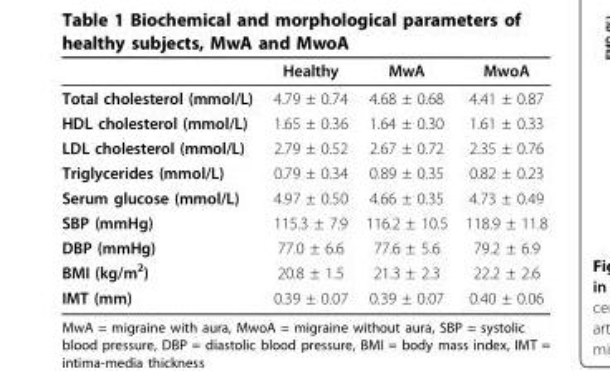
<table><thead><tr><td></td><td>Healthy</td><td>MwA</td><td>MwoA</td></tr></thead><tbody><tr><td>Total cholesterol (mmol/L)</td><td>4.79 ± 0.74</td><td>4.68 ± 0.68</td><td>4.41 ± 0.87</td></tr><tr><td>HDL cholesterol (mmol/L)</td><td>1.65 ± 0.36</td><td>1.64 ± 0.30</td><td>1.61 ± 0.33</td></tr><tr><td>LDL cholesterol (mmol/L)</td><td>2.79 ± 0.52</td><td>2.67 ± 0.72</td><td>2.35 ± 0.76</td></tr><tr><td>Triglycerides (mmol/L)</td><td>0.79 ± 0.34</td><td>0.89 ± 0.35</td><td>0.82 ± 0.23</td></tr><tr><td>Serum glucose (mmol/L)</td><td>4.97 ± 0.50</td><td>4.66 ± 0.35</td><td>4.73 ± 0.49</td></tr><tr><td>SBP (mmHg)</td><td>115.3 ± 7.9</td><td>116.2 ± 10.5</td><td>118.9 ± 11.8</td></tr><tr><td>DBP (mmHg)</td><td>77.0 ± 6.6</td><td>77.6 ± 5.6</td><td>79.2 ± 6.9</td></tr><tr><td>BMI (kg/m<sup>2</sup>)</td><td>20.8 ± 1.5</td><td>21.3 ± 2.3</td><td>22.2 ± 2.6</td></tr><tr><td>IMT (mm)</td><td>0.39 ± 0.07</td><td>0.39 ± 0.07</td><td>0.40 ± 0.06</td></tr></tbody></table>